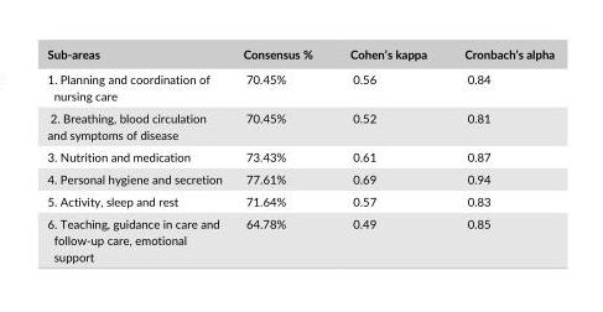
<table><thead><tr><td>Sub- areas</td><td>Consensus %</td><td>Cohen’s kappa</td><td>Cronbach’s alpha</td></tr></thead><tbody><tr><td>1. Planning and coordination of nursing care</td><td>70.45%</td><td>0.56</td><td>0.84</td></tr><tr><td>2. Breathing, blood circulation and symptoms of disease</td><td>70.45%</td><td>0.52</td><td>0.81</td></tr><tr><td>3. Nutrition and medication</td><td>73.43%</td><td>0.61</td><td>0.87</td></tr><tr><td>4. Personal hygiene and secretion</td><td>77.61%</td><td>0.69</td><td>0.94</td></tr><tr><td>5. Activity, sleep and rest</td><td>71.64%</td><td>0.57</td><td>0.83</td></tr><tr><td>6. Teaching, guidance in care and follow- up care, emotional support</td><td>64.78%</td><td>0.49</td><td>0.85</td></tr></tbody></table>